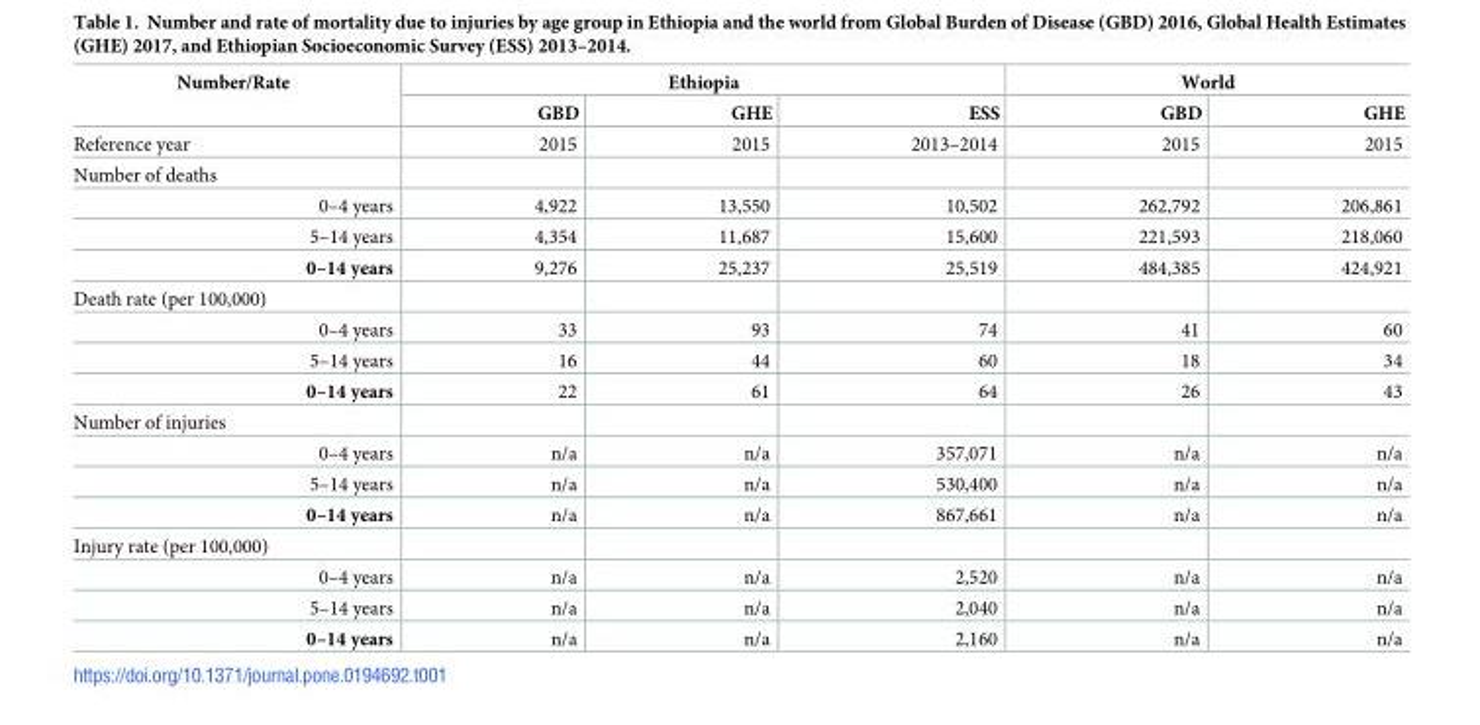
<table><thead><tr><td rowspan="2">Number/Rate</td><td colspan="3">Ethiopia</td><td colspan="2">World</td></tr><tr><td>GBD</td><td>GHE</td><td>ESS</td><td>GBD</td><td>GHE</td></tr></thead><tbody><tr><td>Reference year</td><td>2015</td><td>2015</td><td>2013–2014</td><td>2015</td><td>2015</td></tr><tr><td colspan="6">Number of deaths</td></tr><tr><td>0–4 years</td><td>4,922</td><td>13,550</td><td>10,502</td><td>262,792</td><td>206,861</td></tr><tr><td>5–14 years</td><td>4,354</td><td>11,687</td><td>15,600</td><td>221,593</td><td>218,060</td></tr><tr><td>0–14 years</td><td>9,276</td><td>25,237</td><td>25,519</td><td>484,385</td><td>424,921</td></tr><tr><td colspan="6">Death rate (per 100,000)</td></tr><tr><td>0–4 years</td><td>33</td><td>93</td><td>74</td><td>41</td><td>60</td></tr><tr><td>5–14 years</td><td>16</td><td>44</td><td>60</td><td>18</td><td>34</td></tr><tr><td>0–14 years</td><td>22</td><td>61</td><td>64</td><td>26</td><td>43</td></tr><tr><td colspan="6">Number of injuries</td></tr><tr><td>0–4 years</td><td>n/a</td><td>n/a</td><td>357,071</td><td>n/a</td><td>n/a</td></tr><tr><td>5–14 years</td><td>n/a</td><td>n/a</td><td>530,400</td><td>n/a</td><td>n/a</td></tr><tr><td>0–14 years</td><td>n/a</td><td>n/a</td><td>867,661</td><td>n/a</td><td>n/a</td></tr><tr><td colspan="6">Injury rate (per 100,000)</td></tr><tr><td>0–4 years</td><td>n/a</td><td>n/a</td><td>2,520</td><td>n/a</td><td>n/a</td></tr><tr><td>5–14 years</td><td>n/a</td><td>n/a</td><td>2,040</td><td>n/a</td><td>n/a</td></tr><tr><td>0–14 years</td><td>n/a</td><td>n/a</td><td>2,160</td><td>n/a</td><td>n/a</td></tr></tbody></table>